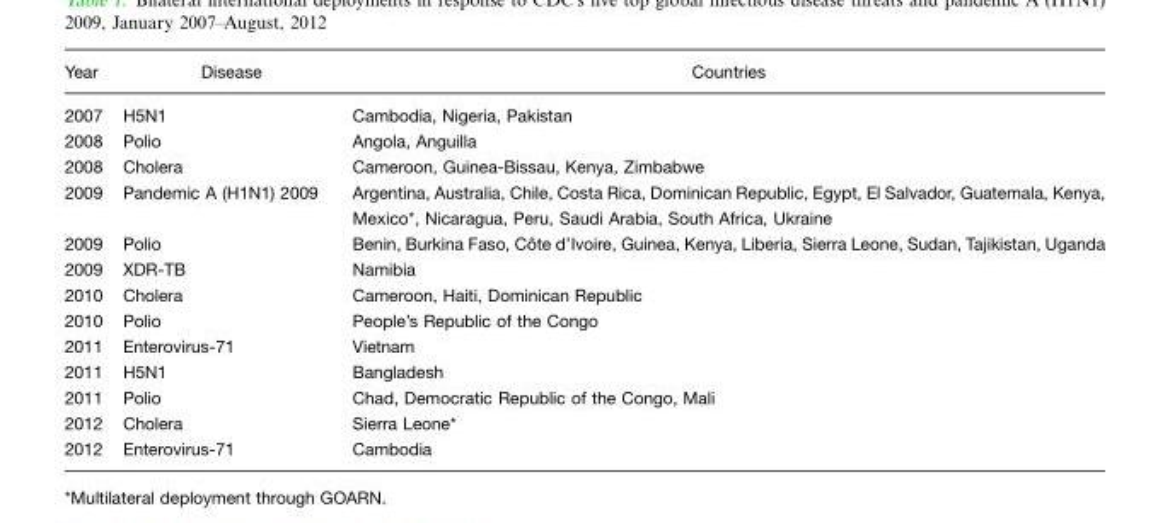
<table><thead><tr><td>Year</td><td>Disease</td><td>Countries</td></tr></thead><tbody><tr><td>2007</td><td>H5N1</td><td>Cambodia, Nigeria, Pakistan</td></tr><tr><td>2008</td><td>Polio</td><td>Angola, Anguilla</td></tr><tr><td>2008</td><td>Cholera</td><td>Cameroon, Guinea-Bissau, Kenya, Zimbabwe</td></tr><tr><td>2009</td><td>Pandemic A (H1N1) 2009</td><td>Argentina, Australia, Chile, Costa Rica, Dominican Republic, Egypt, El Salvador, Guatemala, Kenya, Mexico*, Nicaragua, Peru, Saudi Arabia, South Africa, Ukraine</td></tr><tr><td>2009</td><td>Polio</td><td>Benin, Burkina Faso, Coˆ te d’Ivoire, Guinea, Kenya, Liberia, Sierra Leone, Sudan, Tajikistan, Uganda</td></tr><tr><td>2009</td><td>XDR-TB</td><td>Namibia</td></tr><tr><td>2010</td><td>Cholera</td><td>Cameroon, Haiti, Dominican Republic</td></tr><tr><td>2010</td><td>Polio</td><td>People’s Republic of the Congo</td></tr><tr><td>2011</td><td>Enterovirus-71</td><td>Vietnam</td></tr><tr><td>2011</td><td>H5N1</td><td>Bangladesh</td></tr><tr><td>2011</td><td>Polio</td><td>Chad, Democratic Republic of the Congo, Mali</td></tr><tr><td>2012</td><td>Cholera</td><td>Sierra Leone*</td></tr><tr><td>2012</td><td>Enterovirus-71</td><td>Cambodia</td></tr></tbody></table>